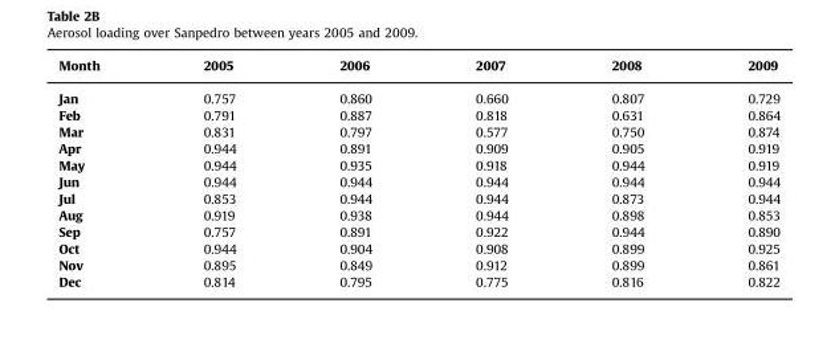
<table><thead><tr><td>Month</td><td>2005</td><td>2006</td><td>2007</td><td>2008</td><td>2009</td></tr></thead><tbody><tr><td>Jan</td><td>0.757</td><td>0.860</td><td>0.660</td><td>0.807</td><td>0.729</td></tr><tr><td>Feb</td><td>0.791</td><td>0.887</td><td>0.818</td><td>0.631</td><td>0.864</td></tr><tr><td>Mar</td><td>0.831</td><td>0.797</td><td>0.577</td><td>0.750</td><td>0.874</td></tr><tr><td>Apr</td><td>0.944</td><td>0.891</td><td>0.909</td><td>0.905</td><td>0.919</td></tr><tr><td>May</td><td>0.944</td><td>0.935</td><td>0.918</td><td>0.944</td><td>0.919</td></tr><tr><td>Jun</td><td>0.944</td><td>0.944</td><td>0.944</td><td>0.944</td><td>0.944</td></tr><tr><td>Jul</td><td>0.853</td><td>0.944</td><td>0.944</td><td>0.873</td><td>0.944</td></tr><tr><td>Aug</td><td>0.919</td><td>0.938</td><td>0.944</td><td>0.898</td><td>0.853</td></tr><tr><td>Sep</td><td>0.757</td><td>0.891</td><td>0.922</td><td>0.944</td><td>0.890</td></tr><tr><td>Oct</td><td>0.944</td><td>0.904</td><td>0.908</td><td>0.899</td><td>0.925</td></tr><tr><td>Nov</td><td>0.895</td><td>0.849</td><td>0.912</td><td>0.899</td><td>0.861</td></tr><tr><td>Dec</td><td>0.814</td><td>0.795</td><td>0.775</td><td>0.816</td><td>0.822</td></tr></tbody></table>